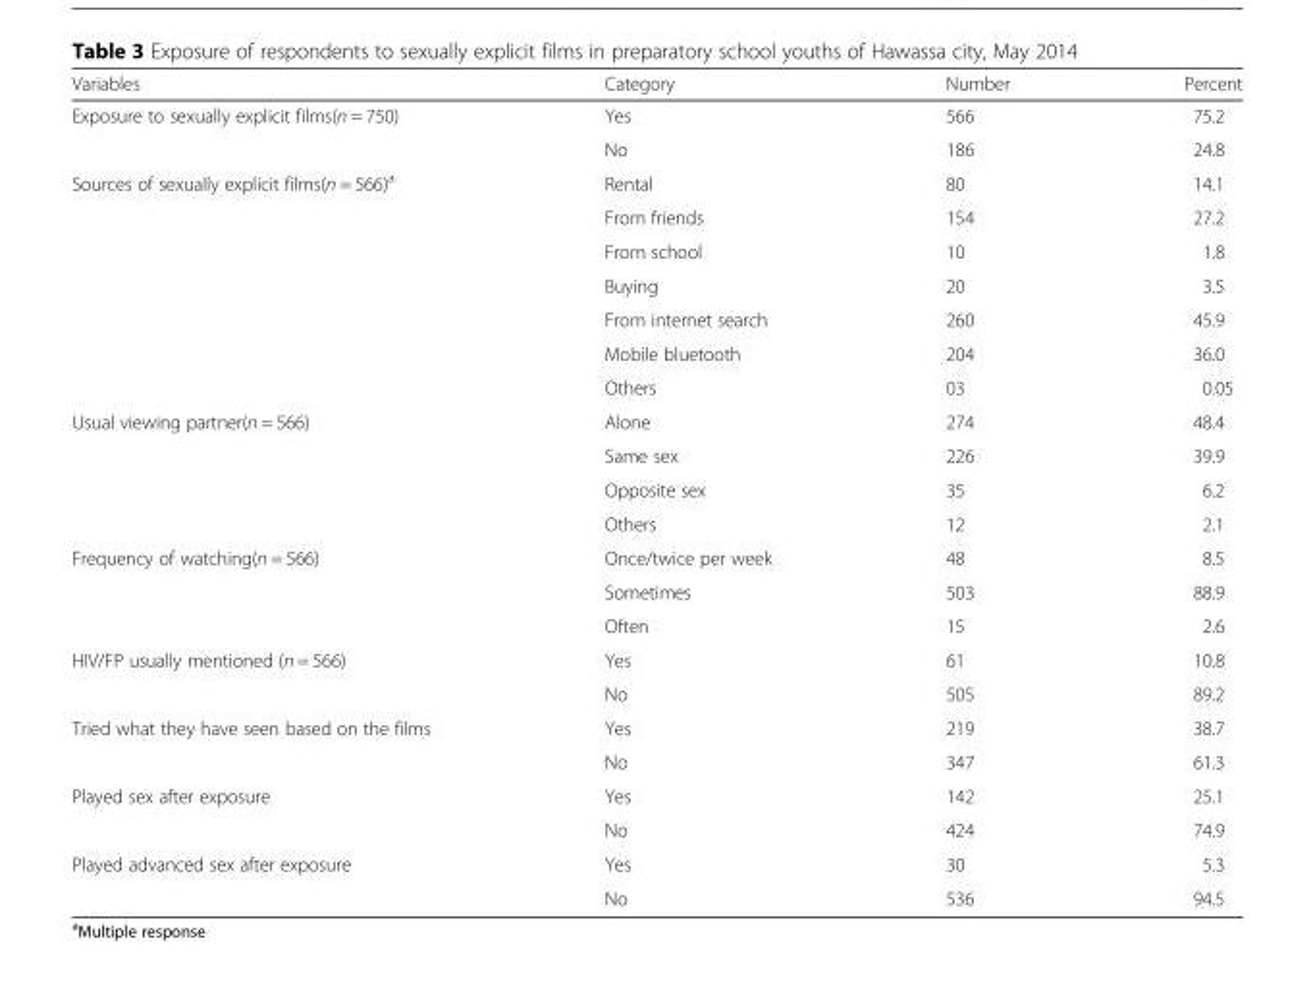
<table><thead><tr><td>Variables</td><td>Category</td><td>Number</td><td>Percent</td></tr></thead><tbody><tr><td rowspan="2">Exposure to sexually explicit films(n = 750)</td><td>Yes</td><td>566</td><td>75.2</td></tr><tr><td>No</td><td>186</td><td>24.8</td></tr><tr><td rowspan="7">Sources of sexually explicit films(n = 566)<sup>a</sup></td><td>Rental</td><td>80</td><td>14.1</td></tr><tr><td>From friends</td><td>154</td><td>27.2</td></tr><tr><td>From school</td><td>10</td><td>1.8</td></tr><tr><td>Buying</td><td>20</td><td>3.5</td></tr><tr><td>From internet search</td><td>260</td><td>45.9</td></tr><tr><td>Mobile bluetooth</td><td>204</td><td>36.0</td></tr><tr><td>Others</td><td>03</td><td>0.05</td></tr><tr><td rowspan="4">Usual viewing partner(n = 566)</td><td>Alone</td><td>274</td><td>48.4</td></tr><tr><td>Same sex</td><td>226</td><td>39.9</td></tr><tr><td>Opposite sex</td><td>35</td><td>6.2</td></tr><tr><td>Others</td><td>12</td><td>2.1</td></tr><tr><td rowspan="3">Frequency of watching(n = 566)</td><td>Once/twice per week</td><td>48</td><td>8.5</td></tr><tr><td>Sometimes</td><td>503</td><td>88.9</td></tr><tr><td>Often</td><td>15</td><td>2.6</td></tr><tr><td rowspan="2">HIV/FP usually mentioned (n = 566)</td><td>Yes</td><td>61</td><td>10.8</td></tr><tr><td>No</td><td>505</td><td>89.2</td></tr><tr><td rowspan="2">Tried what they have seen based on the films</td><td>Yes</td><td>219</td><td>38.7</td></tr><tr><td>No</td><td>347</td><td>61.3</td></tr><tr><td rowspan="2">Played sex after exposure</td><td>Yes</td><td>142</td><td>25.1</td></tr><tr><td>No</td><td>424</td><td>74.9</td></tr><tr><td rowspan="2">Played advanced sex after exposure</td><td>Yes</td><td>30</td><td>5.3</td></tr><tr><td>No</td><td>536</td><td>94.5</td></tr></tbody></table>